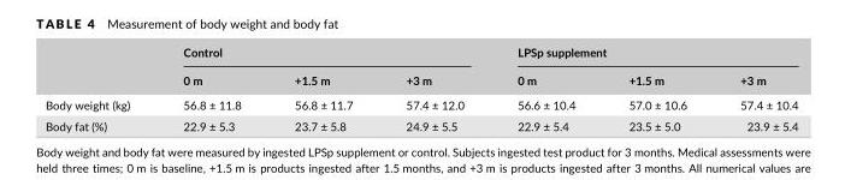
<table><thead><tr><td rowspan="2"></td><td colspan="3">Control</td><td colspan="3">LPSp supplement</td></tr><tr><td>0 m</td><td>+1.5 m</td><td>+3 m</td><td>0 m</td><td>+1.5 m</td><td>+3 m</td></tr></thead><tbody><tr><td>Body weight (kg)</td><td>56.8 ± 11.8</td><td>56.8 ± 11.7</td><td>57.4 ± 12.0</td><td>56.6 ± 10.4</td><td>57.0 ± 10.6</td><td>57.4 ± 10.4</td></tr><tr><td>Body fat (%)</td><td>22.9 ± 5.3</td><td>23.7 ± 5.8</td><td>24.9 ± 5.5</td><td>22.9 ± 5.4</td><td>23.5 ± 5.0</td><td>23.9 ± 5.4</td></tr></tbody></table>